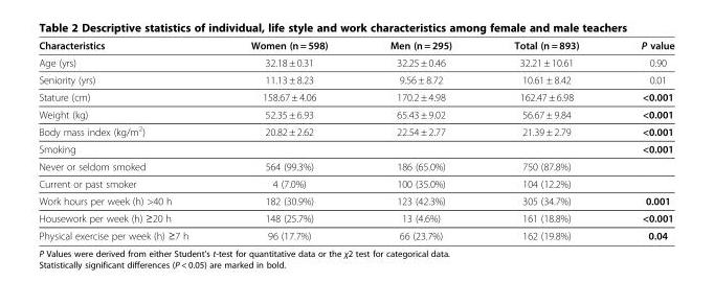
<table><thead><tr><td>Characteristics</td><td>Women (n = 598)</td><td>Men (n = 295)</td><td>Total (n = 893)</td><td>P value</td></tr></thead><tbody><tr><td>Age (yrs)</td><td>32.18 ± 0.31</td><td>32.25 ± 0.46</td><td>32.21 ± 10.61</td><td>0.90</td></tr><tr><td>Seniority (yrs)</td><td>11.13 ± 8.23</td><td>9.56 ± 8.72</td><td>10.61 ± 8.42</td><td>0.01</td></tr><tr><td>Stature (cm)</td><td>158.67 ± 4.06</td><td>170.2 ± 4.98</td><td>162.47 ± 6.98</td><td>&lt;0.001</td></tr><tr><td>Weight (kg)</td><td>52.35 ± 6.93</td><td>65.43 ± 9.02</td><td>56.67 ± 9.84</td><td>&lt;0.001</td></tr><tr><td>Body mass index (kg/m<sup>2</sup>)</td><td>20.82 ± 2.62</td><td>22.54 ± 2.77</td><td>21.39 ± 2.79</td><td>&lt;0.001</td></tr><tr><td>Smoking</td><td></td><td></td><td></td><td>&lt;0.001</td></tr><tr><td>Never or seldom smoked</td><td>564 (99.3%)</td><td>186 (65.0%)</td><td>750 (87.8%)</td><td></td></tr><tr><td>Current or past smoker</td><td>4 (7.0%)</td><td>100 (35.0%)</td><td>104 (12.2%)</td><td></td></tr><tr><td>Work hours per week (h) &gt;40 h</td><td>182 (30.9%)</td><td>123 (42.3%)</td><td>305 (34.7%)</td><td>0.001</td></tr><tr><td>Housework per week (h) ≥20 h</td><td>148 (25.7%)</td><td>13 (4.6%)</td><td>161 (18.8%)</td><td>&lt;0.001</td></tr><tr><td>Physical exercise per week (h) ≥7 h</td><td>96 (17.7%)</td><td>66 (23.7%)</td><td>162 (19.8%)</td><td>0.04</td></tr></tbody></table>